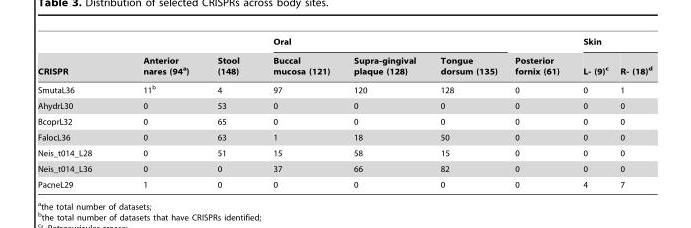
<table><thead><tr><td rowspan="2">CRISPR</td><td rowspan="2">Anterior nares (94<sup>a</sup>)</td><td rowspan="2">Stool (148)</td><td colspan="3">Oral</td><td rowspan="2">Posterior fornix (61)</td><td colspan="2">Skin</td></tr><tr><td>Buccal mucosa (121)</td><td>Supra-gingival plaque (128)</td><td>Tongue dorsum (135)</td><td>L- (9)<sup>c</sup></td><td>R- (18)<sup>d</sup></td></tr></thead><tbody><tr><td>SmutaL36</td><td>11<sup>b</sup></td><td>4</td><td>97</td><td>120</td><td>128</td><td>0</td><td>0</td><td>1</td></tr><tr><td>AhydrL30</td><td>0</td><td>53</td><td>0</td><td>0</td><td>0</td><td>0</td><td>0</td><td>0</td></tr><tr><td>BcoprL32</td><td>0</td><td>65</td><td>0</td><td>0</td><td>0</td><td>0</td><td>0</td><td>0</td></tr><tr><td>FalocL36</td><td>0</td><td>63</td><td>1</td><td>18</td><td>50</td><td>0</td><td>0</td><td>0</td></tr><tr><td>Neis_t014_L28</td><td>0</td><td>51</td><td>15</td><td>58</td><td>15</td><td>0</td><td>0</td><td>0</td></tr><tr><td>Neis_t014_L36</td><td>0</td><td>0</td><td>37</td><td>66</td><td>82</td><td>0</td><td>0</td><td>0</td></tr><tr><td>PacneL29</td><td>1</td><td>0</td><td>0</td><td>0</td><td>0</td><td>0</td><td>4</td><td>7</td></tr></tbody></table>